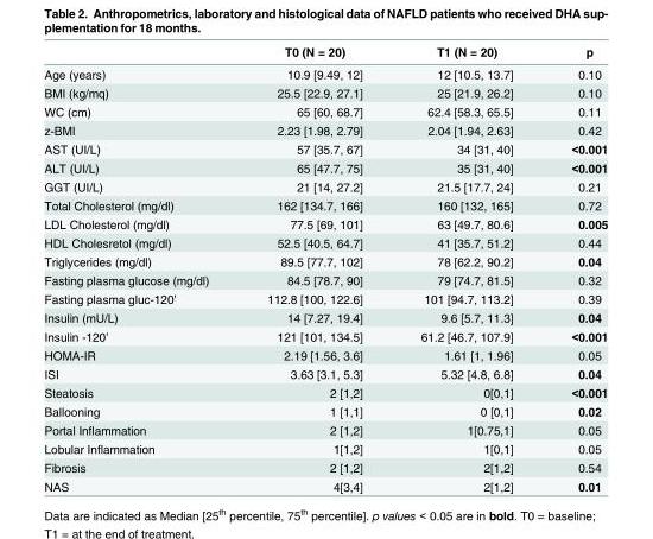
<table><thead><tr><td></td><td>T0 (N = 20)</td><td>T1 (N = 20)</td><td>p</td></tr></thead><tbody><tr><td>Age (years)</td><td>10.9 [9.49, 12]</td><td>12 [10.5, 13.7]</td><td>0.10</td></tr><tr><td>BMI (kg/mq)</td><td>25.5 [22.9, 27.1]</td><td>25 [21.9, 26.2]</td><td>0.10</td></tr><tr><td>WC (cm)</td><td>65 [60, 68.7]</td><td>62.4 [58.3, 65.5]</td><td>0.11</td></tr><tr><td>z-BMI</td><td>2.23 [1.98, 2.79]</td><td>2.04 [1.94, 2.63]</td><td>0.42</td></tr><tr><td>AST (UI/L)</td><td>57 [35.7, 67]</td><td>34 [31, 40]</td><td>&lt;0.001</td></tr><tr><td>ALT (UI/L)</td><td>65 [47.7, 75]</td><td>35 [31, 40]</td><td>&lt;0.001</td></tr><tr><td>GGT (UI/L)</td><td>21 [14, 27.2]</td><td>21.5 [17.7, 24]</td><td>0.21</td></tr><tr><td>Total Cholesterol (mg/dl)</td><td>162 [134.7, 166]</td><td>160 [132, 165]</td><td>0.72</td></tr><tr><td>LDL Cholesterol (mg/dl)</td><td>77.5 [69, 101]</td><td>63 [49.7, 80.6]</td><td>0.005</td></tr><tr><td>HDL Cholesretol (mg/dl)</td><td>52.5 [40.5, 64.7]</td><td>41 [35.7, 51.2]</td><td>0.44</td></tr><tr><td>Triglycerides (mg/dl)</td><td>89.5 [77.7, 102]</td><td>78 [62.2, 90.2]</td><td>0.04</td></tr><tr><td>Fasting plasma glucose (mg/dl)</td><td>84.5 [78.7, 90]</td><td>79 [74.7, 81.5]</td><td>0.32</td></tr><tr><td>Fasting plasma gluc-120’</td><td>112.8 [100, 122.6]</td><td>101 [94.7, 113.2]</td><td>0.39</td></tr><tr><td>Insulin (mU/L)</td><td>14 [7.27, 19.4]</td><td>9.6 [5.7, 11.3]</td><td>0.04</td></tr><tr><td>Insulin -120’</td><td>121 [101, 134.5]</td><td>61.2 [46.7, 107.9]</td><td>&lt;0.001</td></tr><tr><td>HOMA-IR</td><td>2.19 [1.56, 3.6]</td><td>1.61 [1, 1.96]</td><td>0.05</td></tr><tr><td>ISI</td><td>3.63 [3.1, 5.3]</td><td>5.32 [4.8, 6.8]</td><td>0.04</td></tr><tr><td>Steatosis</td><td>2 [1,2]</td><td>0[0,1]</td><td>&lt;0.001</td></tr><tr><td>Ballooning</td><td>1 [1,1]</td><td>0 [0,1]</td><td>0.02</td></tr><tr><td>Portal Inflammation</td><td>2 [1,2]</td><td>1[0.75,1]</td><td>0.05</td></tr><tr><td>Lobular Inflammation</td><td>1[1,2]</td><td>1[0,1]</td><td>0.05</td></tr><tr><td>Fibrosis</td><td>2 [1,2]</td><td>2[1,2]</td><td>0.54</td></tr><tr><td>NAS</td><td>4[3,4]</td><td>2[1,2]</td><td>0.01</td></tr></tbody></table>